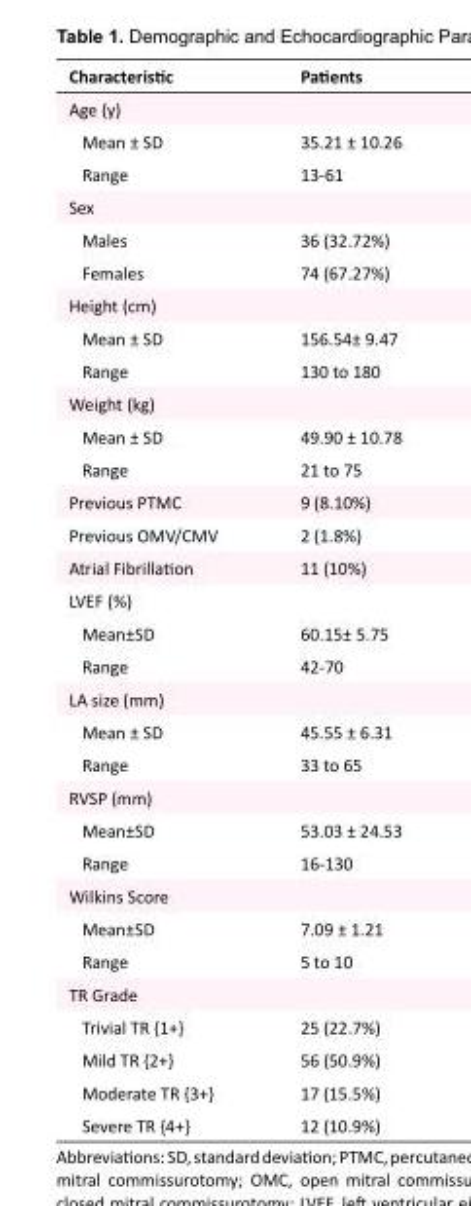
<table><tbody><tr><td>Characteristic</td><td>Patients</td></tr><tr><td colspan="2">Age (y)</td></tr><tr><td>Mean ± SD</td><td>35.21 ± 10.26</td></tr><tr><td>Range</td><td>13-61</td></tr><tr><td colspan="2">Sex</td></tr><tr><td>Males</td><td>36 (32.72%)</td></tr><tr><td>Females</td><td>74 (67.27%)</td></tr><tr><td colspan="2">Height (cm)</td></tr><tr><td>Mean ± SD</td><td>156.54± 9.47</td></tr><tr><td>Range</td><td>130 to 180</td></tr><tr><td colspan="2">Weight (kg)</td></tr><tr><td>Mean ± SD</td><td>49.90 ± 10.78</td></tr><tr><td>Range</td><td>21 to 75</td></tr><tr><td>Previous PTMC</td><td>9 (8.10%)</td></tr><tr><td>Previous OMV/CMV</td><td>2 (1.8%)</td></tr><tr><td>Atrial Fibrillation</td><td>11 (10%)</td></tr><tr><td colspan="2">LVEF (%)</td></tr><tr><td>Mean±SD</td><td>60.15± 5.75</td></tr><tr><td>Range</td><td>42-70</td></tr><tr><td colspan="2">LA size (mm)</td></tr><tr><td>Mean ± SD</td><td>45.55 ± 6.31</td></tr><tr><td>Range</td><td>33 to 65</td></tr><tr><td colspan="2">RVSP (mm)</td></tr><tr><td>Mean±SD</td><td>53.03 ± 24.53</td></tr><tr><td>Range</td><td>16-130</td></tr><tr><td colspan="2">Wilkins Score</td></tr><tr><td>Mean±SD</td><td>7.09 ± 1.21</td></tr><tr><td>Range</td><td>5 to 10</td></tr><tr><td colspan="2">TR Grade</td></tr><tr><td>Trivial TR {1+}</td><td>25 (22.7%)</td></tr><tr><td>Mild TR {2+}</td><td>56 (50.9%)</td></tr><tr><td>Moderate TR {3+}</td><td>17 (15.5%)</td></tr><tr><td>Severe TR {4+}</td><td>12 (10.9%)</td></tr></tbody></table>